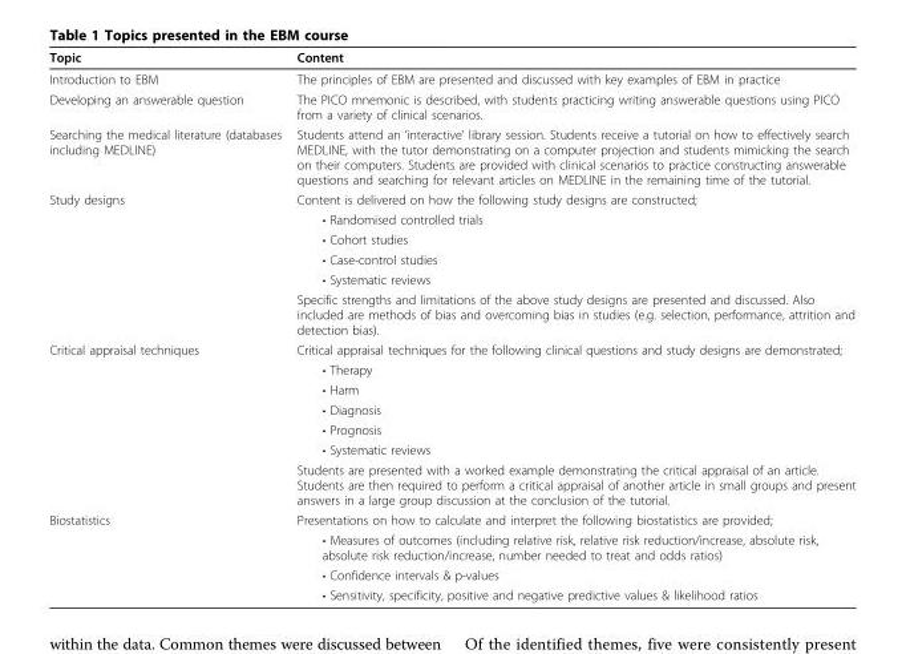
<table><thead><tr><td>Topic</td><td>Content</td></tr></thead><tbody><tr><td>Introduction to EBM</td><td>The principles of EBM are presented and discussed with key examples of EBM in practice</td></tr><tr><td>Developing an answerable question</td><td>The PICO mnemonic is described, with students practicing writing answerable questions using PICO from a variety of clinical scenarios.</td></tr><tr><td>Searching the medical literature (databases including MEDLINE)</td><td>Students attend an ‘interactive’ library session. Students receive a tutorial on how to effectively search MEDLINE, with the tutor demonstrating on a computer projection and students mimicking the search on their computers. Students are provided with clinical scenarios to practice constructing answerable questions and searching for relevant articles on MEDLINE in the remaining time of the tutorial.</td></tr><tr><td rowspan="6">Study designs</td><td>Content is delivered on how the following study designs are constructed;</td></tr><tr><td>• Randomised controlled trials</td></tr><tr><td>• Cohort studies</td></tr><tr><td>• Case-control studies</td></tr><tr><td>• Systematic reviews</td></tr><tr><td>Specific strengths and limitations of the above study designs are presented and discussed. Also included are methods of bias and overcoming bias in studies (e.g. selection, performance, attrition and detection bias).</td></tr><tr><td rowspan="7">Critical appraisal techniques</td><td>Critical appraisal techniques for the following clinical questions and study designs are demonstrated;</td></tr><tr><td>• Therapy</td></tr><tr><td>• Harm</td></tr><tr><td>• Diagnosis</td></tr><tr><td>• Prognosis</td></tr><tr><td>• Systematic reviews</td></tr><tr><td>Students are presented with a worked example demonstrating the critical appraisal of an article. Students are then required to perform a critical appraisal of another article in small groups and present answers in a large group discussion at the conclusion of the tutorial.</td></tr><tr><td rowspan="4">Biostatistics</td><td>Presentations on how to calculate and interpret the following biostatistics are provided;</td></tr><tr><td>• Measures of outcomes (including relative risk, relative risk reduction/increase, absolute risk, absolute risk reduction/increase, number needed to treat and odds ratios)</td></tr><tr><td>• Confidence intervals &amp; p-values</td></tr><tr><td>• Sensitivity, specificity, positive and negative predictive values &amp; likelihood ratios</td></tr></tbody></table>